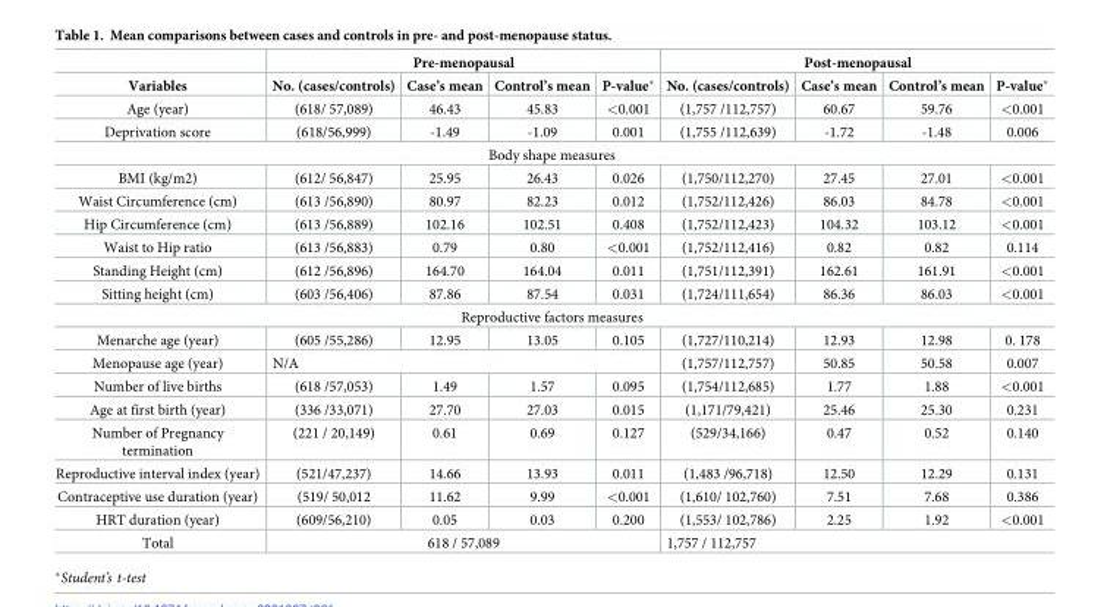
<table><thead><tr><td rowspan="2">Variables</td><td colspan="4">Pre-menopausal</td><td colspan="4">Post-menopausal</td></tr><tr><td>No. (cases/controls)</td><td>Case’s mean</td><td>Control’s mean</td><td>P-value*</td><td>No. (cases/controls)</td><td>Case’s mean</td><td>Control’s mean</td><td>P-value*</td></tr></thead><tbody><tr><td>Age (year)</td><td>(618/ 57,089)</td><td>46.43</td><td>45.83</td><td>&lt;0.001</td><td>(1,757 /112,757)</td><td>60.67</td><td>59.76</td><td>&lt;0.001</td></tr><tr><td>Deprivation score</td><td>(618/56,999)</td><td>-1.49</td><td>-1.09</td><td>0.001</td><td>(1,755 /112,639)</td><td>-1.72</td><td>-1.48</td><td>0.006</td></tr><tr><td colspan="9">Body shape measures</td></tr><tr><td>BMI (kg/m2)</td><td>(612/ 56,847)</td><td>25.95</td><td>26.43</td><td>0.026</td><td>(1,750/112,270)</td><td>27.45</td><td>27.01</td><td>&lt;0.001</td></tr><tr><td>Waist Circumference (cm)</td><td>(613 /56,890)</td><td>80.97</td><td>82.23</td><td>0.012</td><td>(1,752/112,426)</td><td>86.03</td><td>84.78</td><td>&lt;0.001</td></tr><tr><td>Hip Circumference (cm)</td><td>(613 /56,889)</td><td>102.16</td><td>102.51</td><td>0.408</td><td>(1,752/112,423)</td><td>104.32</td><td>103.12</td><td>&lt;0.001</td></tr><tr><td>Waist to Hip ratio</td><td>(613 /56,883)</td><td>0.79</td><td>0.80</td><td>&lt;0.001</td><td>(1,752/112,416)</td><td>0.82</td><td>0.82</td><td>0.114</td></tr><tr><td>Standing Height (cm)</td><td>(612 /56,896)</td><td>164.70</td><td>164.04</td><td>0.011</td><td>(1,751/112,391)</td><td>162.61</td><td>161.91</td><td>&lt;0.001</td></tr><tr><td>Sitting height (cm)</td><td>(603 /56,406)</td><td>87.86</td><td>87.54</td><td>0.031</td><td>(1,724/111,654)</td><td>86.36</td><td>86.03</td><td>&lt;0.001</td></tr><tr><td colspan="9">Reproductive factors measures</td></tr><tr><td>Menarche age (year)</td><td>(605 /55,286)</td><td>12.95</td><td>13.05</td><td>0.105</td><td>(1,727/110,214)</td><td>12.93</td><td>12.98</td><td>0. 178</td></tr><tr><td>Menopause age (year)</td><td colspan="4">N/A</td><td>(1,757/112,757)</td><td>50.85</td><td>50.58</td><td>0.007</td></tr><tr><td>Number of live births</td><td>(618 /57,053)</td><td>1.49</td><td>1.57</td><td>0.095</td><td>(1,754/112,685)</td><td>1.77</td><td>1.88</td><td>&lt;0.001</td></tr><tr><td>Age at first birth (year)</td><td>(336 /33,071)</td><td>27.70</td><td>27.03</td><td>0.015</td><td>(1,171/79,421)</td><td>25.46</td><td>25.30</td><td>0.231</td></tr><tr><td>Number of Pregnancy termination</td><td>(221 / 20,149)</td><td>0.61</td><td>0.69</td><td>0.127</td><td>(529/34,166)</td><td>0.47</td><td>0.52</td><td>0.140</td></tr><tr><td>Reproductive interval index (year)</td><td>(521/47,237)</td><td>14.66</td><td>13.93</td><td>0.011</td><td>(1,483 /96,718)</td><td>12.50</td><td>12.29</td><td>0.131</td></tr><tr><td>Contraceptive use duration (year)</td><td>(519/ 50,012</td><td>11.62</td><td>9.99</td><td>&lt;0.001</td><td>(1,610/ 102,760)</td><td>7.51</td><td>7.68</td><td>0.386</td></tr><tr><td>HRT duration (year)</td><td>(609/56,210)</td><td>0.05</td><td>0.03</td><td>0.200</td><td>(1,553/ 102,786)</td><td>2.25</td><td>1.92</td><td>&lt;0.001</td></tr><tr><td>Total</td><td colspan="4">618 / 57,089</td><td colspan="4">1,757 / 112,757</td></tr></tbody></table>